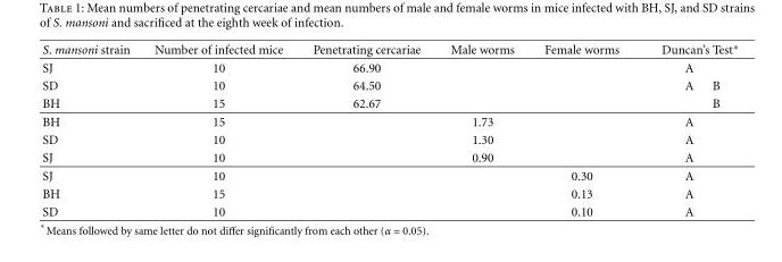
<table><thead><tr><td rowspan="2">S. mansoni strain SJ</td><td rowspan="2">Number of infected mice 10</td><td rowspan="2">Penetrating cercariae 66.90</td><td rowspan="2">Male worms</td><td rowspan="2">Female worms</td><td colspan="2">Duncan’s Test∗</td></tr><tr><td>A</td><td></td></tr></thead><tbody><tr><td>SD</td><td>10</td><td>64.50</td><td></td><td></td><td>A</td><td>B</td></tr><tr><td>BH</td><td>15</td><td>62.67</td><td></td><td></td><td></td><td>B</td></tr><tr><td>BH</td><td>15</td><td></td><td>1.73</td><td></td><td>A</td><td></td></tr><tr><td>SD</td><td>10</td><td></td><td>1.30</td><td></td><td>A</td><td></td></tr><tr><td>SJ</td><td>10</td><td></td><td>0.90</td><td></td><td>A</td><td></td></tr><tr><td>SJ</td><td>10</td><td></td><td></td><td>0.30</td><td>A</td><td></td></tr><tr><td>BH</td><td>15</td><td></td><td></td><td>0.13</td><td>A</td><td></td></tr><tr><td>SD</td><td>10</td><td></td><td></td><td>0.10</td><td>A</td><td></td></tr></tbody></table>